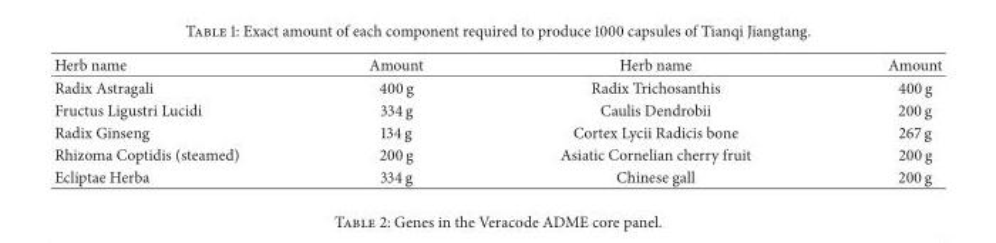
<table><thead><tr><td>Herb name</td><td>Amount</td><td>Herb name</td><td>Amount</td></tr></thead><tbody><tr><td>Radix Astragali</td><td>400 g</td><td>Radix Trichosanthis</td><td>400 g</td></tr><tr><td>Fructus Ligustri Lucidi</td><td>334 g</td><td>Caulis Dendrobii</td><td>200 g</td></tr><tr><td>Radix Ginseng</td><td>134 g</td><td>Cortex Lycii Radicis bone</td><td>267 g</td></tr><tr><td>Rhizoma Coptidis (steamed)</td><td>200 g</td><td>Asiatic Cornelian cherry fruit</td><td>200 g</td></tr><tr><td>Ecliptae Herba</td><td>334 g</td><td>Chinese gall</td><td>200 g</td></tr></tbody></table>